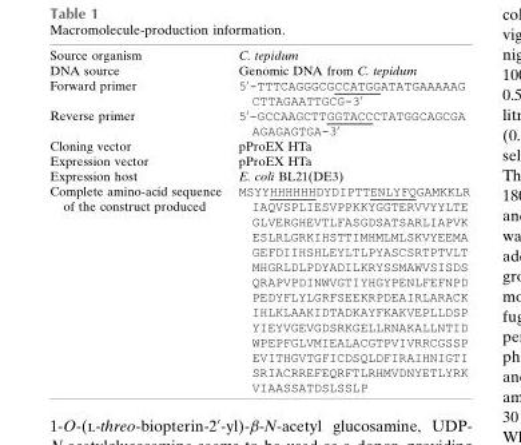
<table><tbody><tr><td>Source organism</td><td>C. tepidum</td></tr><tr><td>DNA source</td><td>Genomic DNA from C. tepidum</td></tr><tr><td>Forward primer</td><td>5′-TTTCAGGGCGCCATGGATATGAAAAAG CTTAGAATTGCG-3′</td></tr><tr><td>Reverse primer</td><td>5′-GCCAAGCTTGGTACCCTATGGCAGCGA AGAGAGTGA-3′</td></tr><tr><td>Cloning vector</td><td>pProEX HTa</td></tr><tr><td>Expression vector</td><td>pProEX HTa</td></tr><tr><td>Expression host</td><td>E. coli BL21(DE3)</td></tr><tr><td>Complete amino-acid sequence of the construct produced</td><td>MSYYHHHHHHDYDIPTTENLYFQGAMKKLR IAQVSPLIESVPPKKYGGTERVVYYLTE GLVERGHEVTLFASGDSATSARLIAPVK ESLRLGRKIHSTTIMHMLMLSKVYEEMA GEFDIIHSHLEYLTLPYASCSRTPTVLT MHGRLDLPDYADILKRYSSMAWVSISDS QRAPVPDINWVGTIYHGYPENLFEFNPD PEDYFLYLGRFSEEKRPDEAIRLARACK IHLKLAAKIDTADKAYFKAKVEPLLDSP YIEYVGEVGDSRKGELLRNAKALLNTID WPEPFGLVMIEALACGTPVIVRRCGSSP EVITHGVTGFICDSQLDFIRAIHNIGTI SRIACRREFEQRFTLRHMVDNYETLYRK VIAASSATDSLSSLP</td></tr></tbody></table>